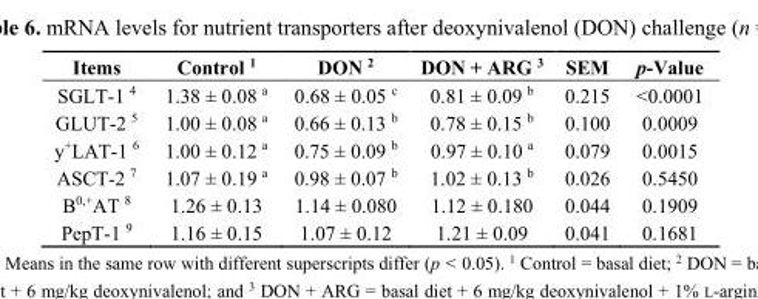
<table><thead><tr><td>Items</td><td>Control <sup>1</sup></td><td>DON <sup>2</sup></td><td>DON + ARG <sup>3</sup></td><td>SEM</td><td>p-Value</td></tr></thead><tbody><tr><td>SGLT-1 <sup>4</sup></td><td>1.38 ± 0.08 <sup>a</sup></td><td>0.68 ± 0.05 <sup>c</sup></td><td>0.81 ± 0.09 <sup>b</sup></td><td>0.215</td><td>&lt;0.0001</td></tr><tr><td>GLUT-2 <sup>5</sup></td><td>1.00 ± 0.08 <sup>a</sup></td><td>0.66 ± 0.13 <sup>b</sup></td><td>0.78 ± 0.15 <sup>b</sup></td><td>0.100</td><td>0.0009</td></tr><tr><td>y<sup>+</sup>LAT-1 <sup>6</sup></td><td>1.00 ± 0.12 <sup>a</sup></td><td>0.75 ± 0.09 <sup>b</sup></td><td>0.97 ± 0.10 <sup>a</sup></td><td>0.079</td><td>0.0015</td></tr><tr><td>ASCT-2 <sup>7</sup></td><td>1.07 ± 0.19 <sup>a</sup></td><td>0.98 ± 0.07 <sup>b</sup></td><td>1.02 ± 0.13 <sup>b</sup></td><td>0.026</td><td>0.5450</td></tr><tr><td>B<sup>0,+</sup>AT <sup>8</sup></td><td>1.26 ± 0.13</td><td>1.14 ± 0.080</td><td>1.12 ± 0.180</td><td>0.044</td><td>0.1909</td></tr><tr><td>PepT-1 <sup>9</sup></td><td>1.16 ± 0.15</td><td>1.07 ± 0.12</td><td>1.21 ± 0.09</td><td>0.041</td><td>0.1681</td></tr></tbody></table>